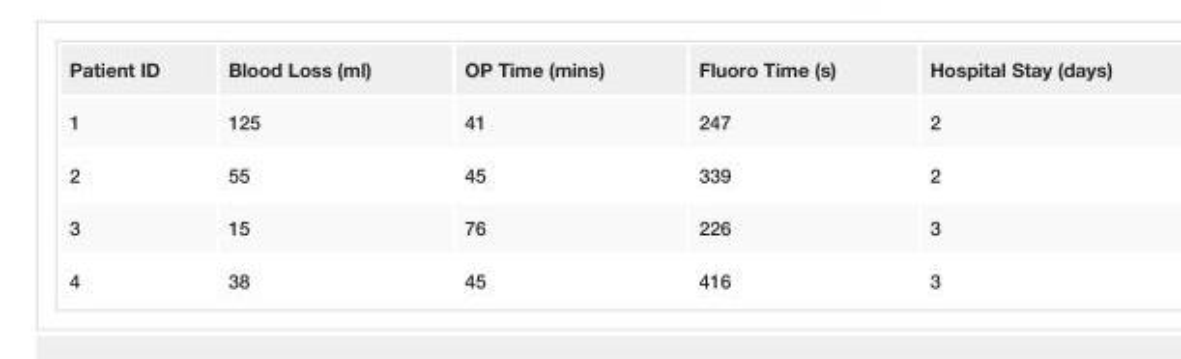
<table><tbody><tr><td>Patient ID</td><td>Blood Loss (ml)</td><td>OP Time (mins)</td><td>Fluoro Time (s)</td><td>Hospital Stay (days)</td></tr><tr><td>1</td><td>125</td><td>41</td><td>247</td><td>2</td></tr><tr><td>2</td><td>55</td><td>45</td><td>339</td><td>2</td></tr><tr><td>3</td><td>15</td><td>76</td><td>226</td><td>3</td></tr><tr><td>4</td><td>38</td><td>45</td><td>416</td><td>3</td></tr></tbody></table>